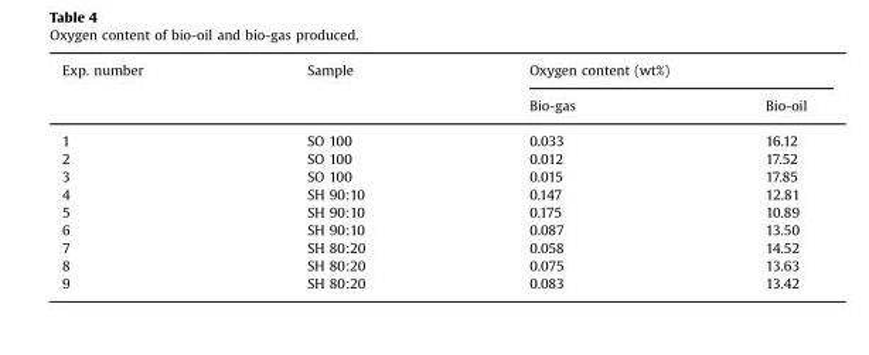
<table><thead><tr><td rowspan="2">Exp. number</td><td rowspan="2">Sample</td><td colspan="2">Oxygen content (wt%)</td></tr><tr><td>Bio-gas</td><td>Bio-oil</td></tr></thead><tbody><tr><td>1</td><td>SO 100</td><td>0.033</td><td>16.12</td></tr><tr><td>2</td><td>SO 100</td><td>0.012</td><td>17.52</td></tr><tr><td>3</td><td>SO 100</td><td>0.015</td><td>17.85</td></tr><tr><td>4</td><td>SH 90:10</td><td>0.147</td><td>12.81</td></tr><tr><td>5</td><td>SH 90:10</td><td>0.175</td><td>10.89</td></tr><tr><td>6</td><td>SH 90:10</td><td>0.087</td><td>13.50</td></tr><tr><td>7</td><td>SH 80:20</td><td>0.058</td><td>14.52</td></tr><tr><td>8</td><td>SH 80:20</td><td>0.075</td><td>13.63</td></tr><tr><td>9</td><td>SH 80:20</td><td>0.083</td><td>13.42</td></tr></tbody></table>